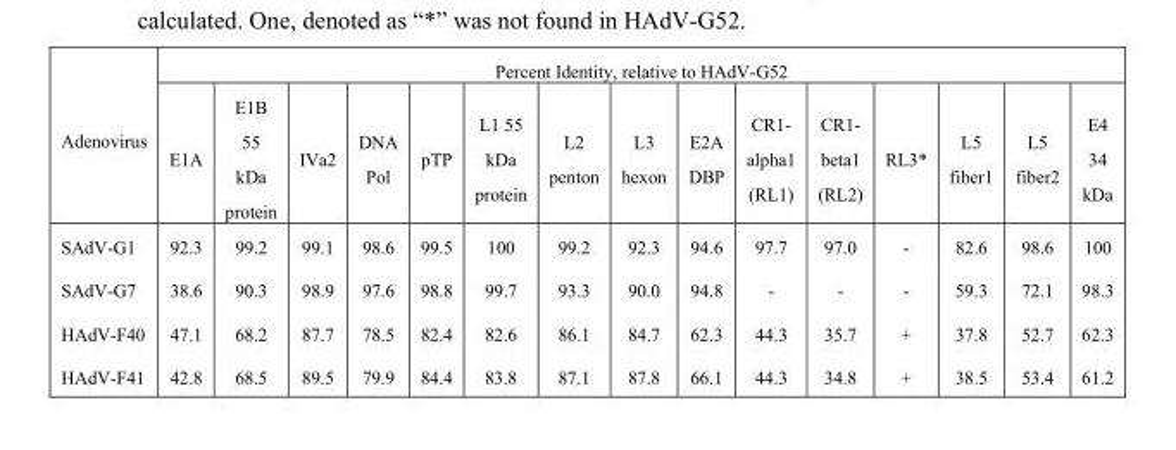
<table><thead><tr><td rowspan="2">Adenovirus</td><td colspan="15">Percent Identity, relative to HAdV-G52</td></tr><tr><td>E1A</td><td>E1B 55 kDa protein</td><td>IVa2</td><td>DNA Pol</td><td>pTP</td><td>L1 55 kDa protein</td><td>L2 penton</td><td>L3 hexon</td><td>E2A DBP</td><td>CR1- alpha1 (RL1)</td><td>CR1- beta1 (RL2)</td><td>RL3*</td><td>L5 fiber1</td><td>L5 fiber2</td><td>E4 34 kDa</td></tr></thead><tbody><tr><td>SAdV-G1</td><td>92.3</td><td>99.2</td><td>99.1</td><td>98.6</td><td>99.5</td><td>100</td><td>99.2</td><td>92.3</td><td>94.6</td><td>97.7</td><td>97.0</td><td>-</td><td>82.6</td><td>98.6</td><td>100</td></tr><tr><td>SAdV-G7</td><td>38.6</td><td>90.3</td><td>98.9</td><td>97.6</td><td>98.8</td><td>99.7</td><td>93.3</td><td>90.0</td><td>94.8</td><td>-</td><td>-</td><td>-</td><td>59.3</td><td>72.1</td><td>98.3</td></tr><tr><td>HAdV-F40</td><td>47.1</td><td>68.2</td><td>87.7</td><td>78.5</td><td>82.4</td><td>82.6</td><td>86.1</td><td>84.7</td><td>62.3</td><td>44.3</td><td>35.7</td><td>+</td><td>37.8</td><td>52.7</td><td>62.3</td></tr><tr><td>HAdV-F41</td><td>42.8</td><td>68.5</td><td>89.5</td><td>79.9</td><td>84.4</td><td>83.8</td><td>87.1</td><td>87.8</td><td>66.1</td><td>44.3</td><td>34.8</td><td>+</td><td>38.5</td><td>53.4</td><td>61.2</td></tr></tbody></table>